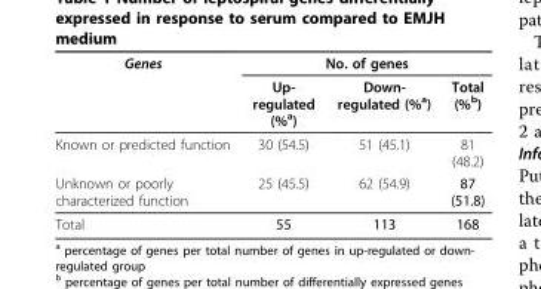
<table><thead><tr><td rowspan="2">Genes</td><td colspan="3">No. of genes</td></tr><tr><td>Up- regulated (%<sup>a</sup>)</td><td>Down- regulated (%<sup>a</sup>)</td><td>Total (%<sup>b</sup>)</td></tr></thead><tbody><tr><td>Known or predicted function</td><td>30 (54.5)</td><td>51 (45.1)</td><td>81 (48.2)</td></tr><tr><td>Unknown or poorly characterized function</td><td>25 (45.5)</td><td>62 (54.9)</td><td>87 (51.8)</td></tr><tr><td>Total</td><td>55</td><td>113</td><td>168</td></tr></tbody></table>